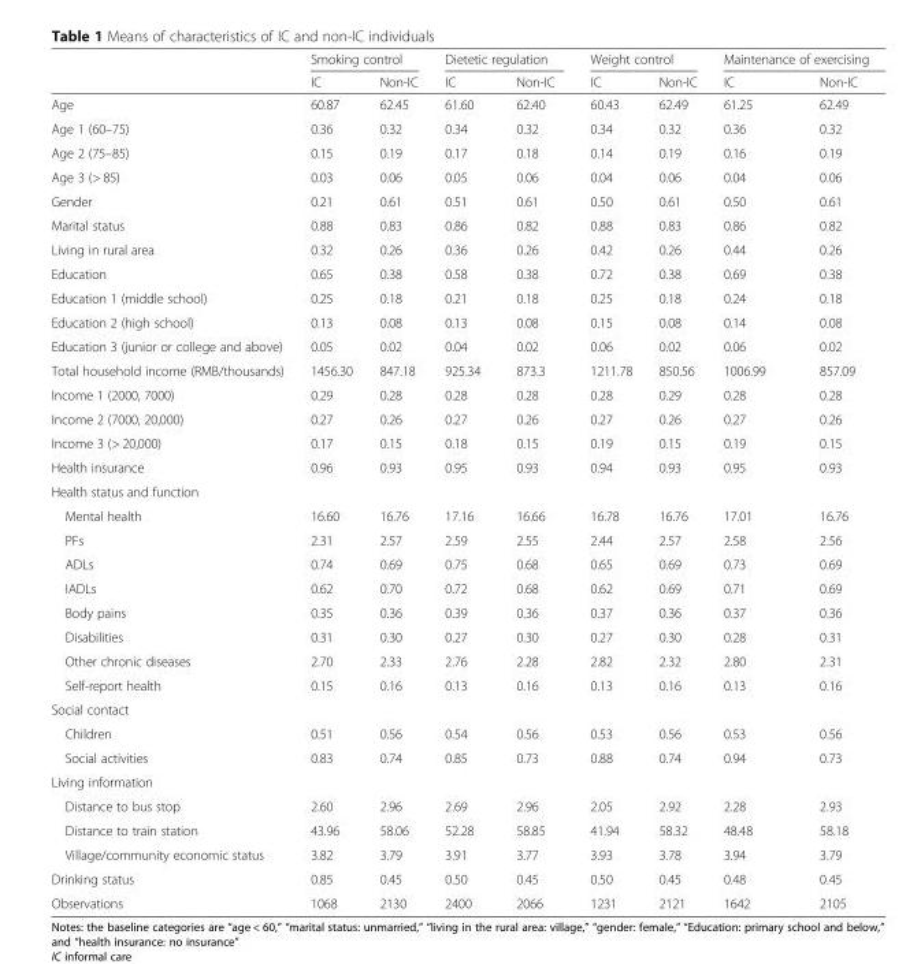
<table><thead><tr><td rowspan="2"></td><td colspan="2">Smoking control</td><td colspan="2">Dietetic regulation</td><td colspan="2">Weight control</td><td colspan="2">Maintenance of exercising</td></tr><tr><td>IC</td><td>Non-IC</td><td>IC</td><td>Non-IC</td><td>IC</td><td>Non-IC</td><td>IC</td><td>Non-IC</td></tr></thead><tbody><tr><td>Age</td><td>60.87</td><td>62.45</td><td>61.60</td><td>62.40</td><td>60.43</td><td>62.49</td><td>61.25</td><td>62.49</td></tr><tr><td>Age 1 (60–75)</td><td>0.36</td><td>0.32</td><td>0.34</td><td>0.32</td><td>0.34</td><td>0.32</td><td>0.36</td><td>0.32</td></tr><tr><td>Age 2 (75–85)</td><td>0.15</td><td>0.19</td><td>0.17</td><td>0.18</td><td>0.14</td><td>0.19</td><td>0.16</td><td>0.19</td></tr><tr><td>Age 3 (&gt; 85)</td><td>0.03</td><td>0.06</td><td>0.05</td><td>0.06</td><td>0.04</td><td>0.06</td><td>0.04</td><td>0.06</td></tr><tr><td>Gender</td><td>0.21</td><td>0.61</td><td>0.51</td><td>0.61</td><td>0.50</td><td>0.61</td><td>0.50</td><td>0.61</td></tr><tr><td>Marital status</td><td>0.88</td><td>0.83</td><td>0.86</td><td>0.82</td><td>0.88</td><td>0.83</td><td>0.86</td><td>0.82</td></tr><tr><td>Living in rural area</td><td>0.32</td><td>0.26</td><td>0.36</td><td>0.26</td><td>0.42</td><td>0.26</td><td>0.44</td><td>0.26</td></tr><tr><td>Education</td><td>0.65</td><td>0.38</td><td>0.58</td><td>0.38</td><td>0.72</td><td>0.38</td><td>0.69</td><td>0.38</td></tr><tr><td>Education 1 (middle school)</td><td>0.25</td><td>0.18</td><td>0.21</td><td>0.18</td><td>0.25</td><td>0.18</td><td>0.24</td><td>0.18</td></tr><tr><td>Education 2 (high school)</td><td>0.13</td><td>0.08</td><td>0.13</td><td>0.08</td><td>0.15</td><td>0.08</td><td>0.14</td><td>0.08</td></tr><tr><td>Education 3 (junior or college and above)</td><td>0.05</td><td>0.02</td><td>0.04</td><td>0.02</td><td>0.06</td><td>0.02</td><td>0.06</td><td>0.02</td></tr><tr><td>Total household income (RMB/thousands)</td><td>1456.30</td><td>847.18</td><td>925.34</td><td>873.3</td><td>1211.78</td><td>850.56</td><td>1006.99</td><td>857.09</td></tr><tr><td>Income 1 (2000, 7000)</td><td>0.29</td><td>0.28</td><td>0.28</td><td>0.28</td><td>0.28</td><td>0.29</td><td>0.28</td><td>0.28</td></tr><tr><td>Income 2 (7000, 20,000)</td><td>0.27</td><td>0.26</td><td>0.27</td><td>0.26</td><td>0.27</td><td>0.26</td><td>0.27</td><td>0.26</td></tr><tr><td>Income 3 (&gt; 20,000)</td><td>0.17</td><td>0.15</td><td>0.18</td><td>0.15</td><td>0.19</td><td>0.15</td><td>0.19</td><td>0.15</td></tr><tr><td>Health insurance</td><td>0.96</td><td>0.93</td><td>0.95</td><td>0.93</td><td>0.94</td><td>0.93</td><td>0.95</td><td>0.93</td></tr><tr><td colspan="9">Health status and function</td></tr><tr><td>Mental health</td><td>16.60</td><td>16.76</td><td>17.16</td><td>16.66</td><td>16.78</td><td>16.76</td><td>17.01</td><td>16.76</td></tr><tr><td>PFs</td><td>2.31</td><td>2.57</td><td>2.59</td><td>2.55</td><td>2.44</td><td>2.57</td><td>2.58</td><td>2.56</td></tr><tr><td>ADLs</td><td>0.74</td><td>0.69</td><td>0.75</td><td>0.68</td><td>0.65</td><td>0.69</td><td>0.73</td><td>0.69</td></tr><tr><td>IADLs</td><td>0.62</td><td>0.70</td><td>0.72</td><td>0.68</td><td>0.62</td><td>0.69</td><td>0.71</td><td>0.69</td></tr><tr><td>Body pains</td><td>0.35</td><td>0.36</td><td>0.39</td><td>0.36</td><td>0.37</td><td>0.36</td><td>0.37</td><td>0.36</td></tr><tr><td>Disabilities</td><td>0.31</td><td>0.30</td><td>0.27</td><td>0.30</td><td>0.27</td><td>0.30</td><td>0.28</td><td>0.31</td></tr><tr><td>Other chronic diseases</td><td>2.70</td><td>2.33</td><td>2.76</td><td>2.28</td><td>2.82</td><td>2.32</td><td>2.80</td><td>2.31</td></tr><tr><td>Self-report health</td><td>0.15</td><td>0.16</td><td>0.13</td><td>0.16</td><td>0.13</td><td>0.16</td><td>0.13</td><td>0.16</td></tr><tr><td colspan="9">Social contact</td></tr><tr><td>Children</td><td>0.51</td><td>0.56</td><td>0.54</td><td>0.56</td><td>0.53</td><td>0.56</td><td>0.53</td><td>0.56</td></tr><tr><td>Social activities</td><td>0.83</td><td>0.74</td><td>0.85</td><td>0.73</td><td>0.88</td><td>0.74</td><td>0.94</td><td>0.73</td></tr><tr><td colspan="9">Living information</td></tr><tr><td>Distance to bus stop</td><td>2.60</td><td>2.96</td><td>2.69</td><td>2.96</td><td>2.05</td><td>2.92</td><td>2.28</td><td>2.93</td></tr><tr><td>Distance to train station</td><td>43.96</td><td>58.06</td><td>52.28</td><td>58.85</td><td>41.94</td><td>58.32</td><td>48.48</td><td>58.18</td></tr><tr><td>Village/community economic status</td><td>3.82</td><td>3.79</td><td>3.91</td><td>3.77</td><td>3.93</td><td>3.78</td><td>3.94</td><td>3.79</td></tr><tr><td>Drinking status</td><td>0.85</td><td>0.45</td><td>0.50</td><td>0.45</td><td>0.50</td><td>0.45</td><td>0.48</td><td>0.45</td></tr><tr><td>Observations</td><td>1068</td><td>2130</td><td>2400</td><td>2066</td><td>1231</td><td>2121</td><td>1642</td><td>2105</td></tr></tbody></table>